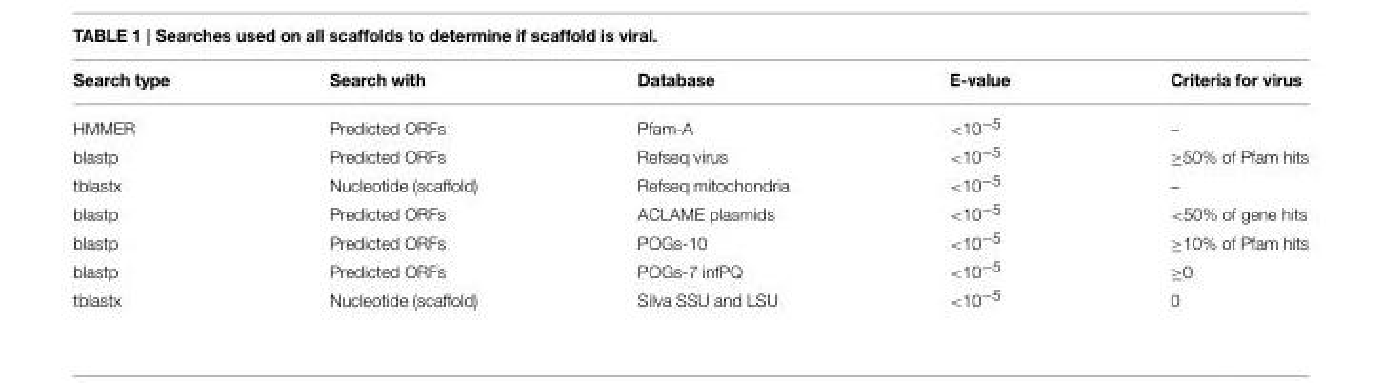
<table><thead><tr><td>Search type</td><td>Search with</td><td>Database</td><td>E-value</td><td>Criteria for virus</td></tr></thead><tbody><tr><td>HMMER</td><td>Predicted ORFs</td><td>Pfam-A</td><td>&lt;10<sup>−5</sup></td><td>–</td></tr><tr><td>blastp</td><td>Predicted ORFs</td><td>Refseq virus</td><td>&lt;10<sup>−5</sup></td><td>≥50% of Pfam hits</td></tr><tr><td>tblastx</td><td>Nucleotide (scaffold)</td><td>Refseq mitochondria</td><td>&lt;10<sup>−5</sup></td><td>–</td></tr><tr><td>blastp</td><td>Predicted ORFs</td><td>ACLAME plasmids</td><td>&lt;10<sup>−5</sup></td><td>&lt;50% of gene hits</td></tr><tr><td>blastp</td><td>Predicted ORFs</td><td>POGs-10</td><td>&lt;10<sup>−5</sup></td><td>≥10% of Pfam hits</td></tr><tr><td>blastp</td><td>Predicted ORFs</td><td>POGs-7 infPQ</td><td>&lt;10<sup>−5</sup></td><td>≥0</td></tr><tr><td>tblastx</td><td>Nucleotide (scaffold)</td><td>Silva SSU and LSU</td><td>&lt;10<sup>−5</sup></td><td>0</td></tr></tbody></table>